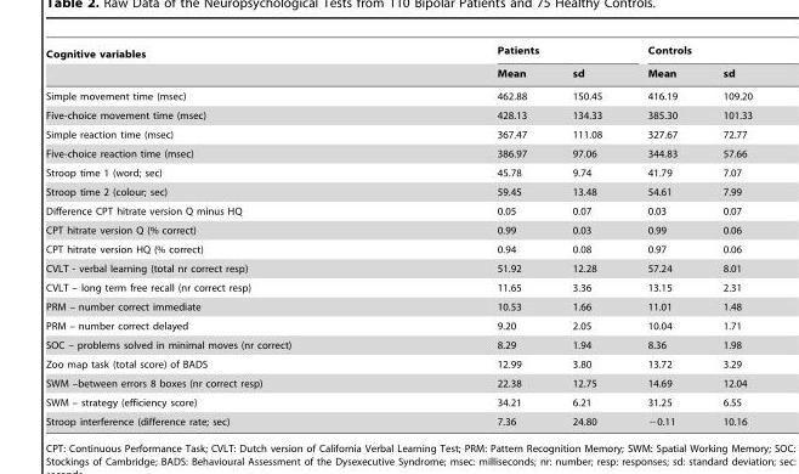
<table><thead><tr><td rowspan="2">Cognitive variables</td><td colspan="2">Patients</td><td colspan="2">Controls</td></tr><tr><td>Mean</td><td>sd</td><td>Mean</td><td>sd</td></tr></thead><tbody><tr><td>Simple movement time (msec)</td><td>462.88</td><td>150.45</td><td>416.19</td><td>109.20</td></tr><tr><td>Five-choice movement time (msec)</td><td>428.13</td><td>134.33</td><td>385.30</td><td>101.33</td></tr><tr><td>Simple reaction time (msec)</td><td>367.47</td><td>111.08</td><td>327.67</td><td>72.77</td></tr><tr><td>Five-choice reaction time (msec)</td><td>386.97</td><td>97.06</td><td>344.83</td><td>57.66</td></tr><tr><td>Stroop time 1 (word; sec)</td><td>45.78</td><td>9.74</td><td>41.79</td><td>7.07</td></tr><tr><td>Stroop time 2 (colour; sec)</td><td>59.45</td><td>13.48</td><td>54.61</td><td>7.99</td></tr><tr><td>Difference CPT hitrate version Q minus HQ</td><td>0.05</td><td>0.07</td><td>0.03</td><td>0.07</td></tr><tr><td>CPT hitrate version Q (% correct)</td><td>0.99</td><td>0.03</td><td>0.99</td><td>0.06</td></tr><tr><td>CPT hitrate version HQ (% correct)</td><td>0.94</td><td>0.08</td><td>0.97</td><td>0.06</td></tr><tr><td>CVLT - verbal learning (total nr correct resp)</td><td>51.92</td><td>12.28</td><td>57.24</td><td>8.01</td></tr><tr><td>CVLT – long term free recall (nr correct resp)</td><td>11.65</td><td>3.36</td><td>13.15</td><td>2.31</td></tr><tr><td>PRM – number correct immediate</td><td>10.53</td><td>1.66</td><td>11.01</td><td>1.48</td></tr><tr><td>PRM – number correct delayed</td><td>9.20</td><td>2.05</td><td>10.04</td><td>1.71</td></tr><tr><td>SOC – problems solved in minimal moves (nr correct)</td><td>8.29</td><td>1.94</td><td>8.36</td><td>1.98</td></tr><tr><td>Zoo map task (total score) of BADS</td><td>12.99</td><td>3.80</td><td>13.72</td><td>3.29</td></tr><tr><td>SWM –between errors 8 boxes (nr correct resp)</td><td>22.38</td><td>12.75</td><td>14.69</td><td>12.04</td></tr><tr><td>SWM – strategy (efficiency score)</td><td>34.21</td><td>6.21</td><td>31.25</td><td>6.55</td></tr><tr><td>Stroop interference (difference rate; sec)</td><td>7.36</td><td>24.80</td><td>−0.11</td><td>10.16</td></tr></tbody></table>